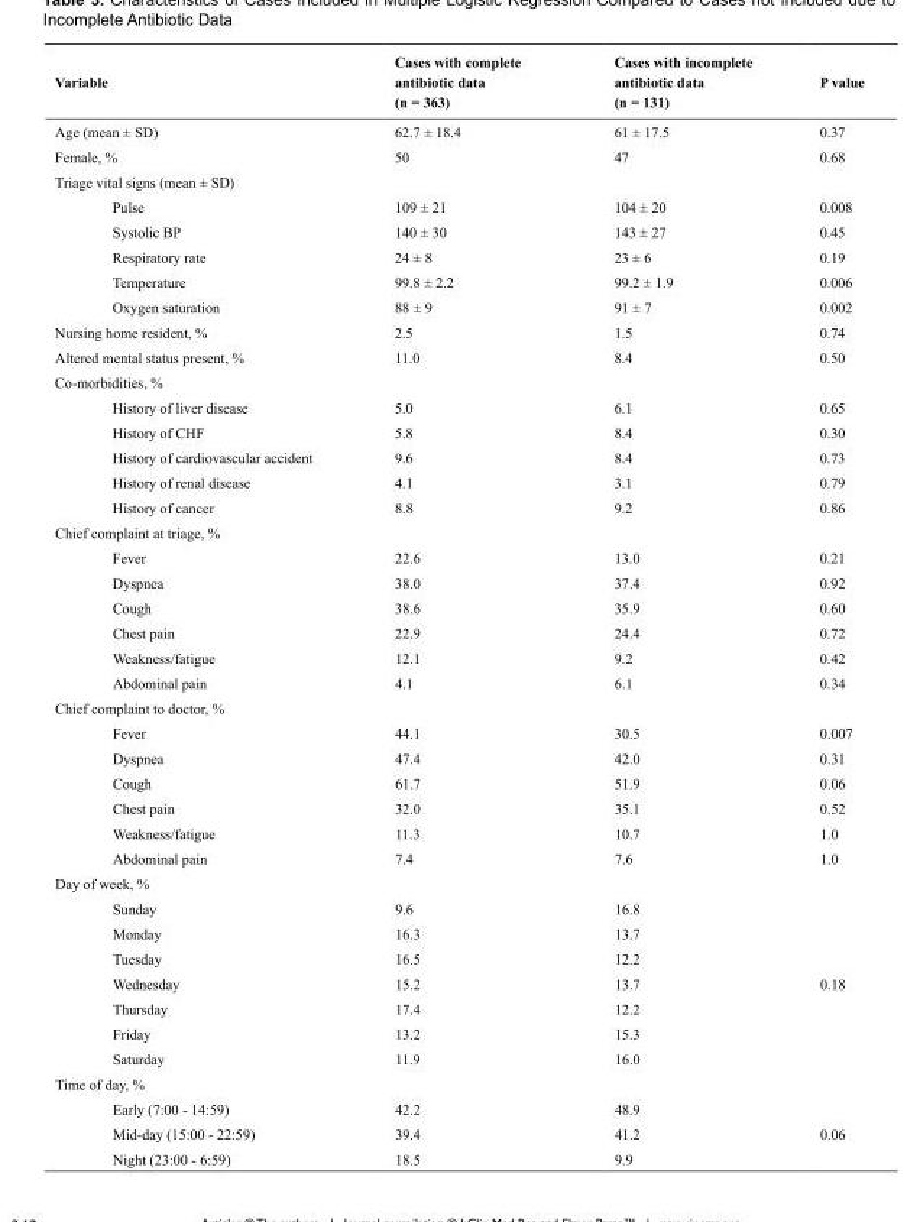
<table><thead><tr><td>Variable</td><td>Cases with complete antibiotic data (n = 363)</td><td>Cases with incomplete antibiotic data (n = 131)</td><td>P value</td></tr></thead><tbody><tr><td>Age (mean ± SD)</td><td>62.7 ± 18.4</td><td>61 ± 17.5</td><td>0.37</td></tr><tr><td>Female, %</td><td>50</td><td>47</td><td>0.68</td></tr><tr><td colspan="4">Triage vital signs (mean ± SD)</td></tr><tr><td>Pulse</td><td>109 ± 21</td><td>104 ± 20</td><td>0.008</td></tr><tr><td>Systolic BP</td><td>140 ± 30</td><td>143 ± 27</td><td>0.45</td></tr><tr><td>Respiratory rate</td><td>24 ± 8</td><td>23 ± 6</td><td>0.19</td></tr><tr><td>Temperature</td><td>99.8 ± 2.2</td><td>99.2 ± 1.9</td><td>0.006</td></tr><tr><td>Oxygen saturation</td><td>88 ± 9</td><td>91 ± 7</td><td>0.002</td></tr><tr><td>Nursing home resident, %</td><td>2.5</td><td>1.5</td><td>0.74</td></tr><tr><td>Altered mental status present, %</td><td>11.0</td><td>8.4</td><td>0.50</td></tr><tr><td colspan="4">Co-morbidities, %</td></tr><tr><td>History of liver disease</td><td>5.0</td><td>6.1</td><td>0.65</td></tr><tr><td>History of CHF</td><td>5.8</td><td>8.4</td><td>0.30</td></tr><tr><td>History of cardiovascular accident</td><td>9.6</td><td>8.4</td><td>0.73</td></tr><tr><td>History of renal disease</td><td>4.1</td><td>3.1</td><td>0.79</td></tr><tr><td>History of cancer</td><td>8.8</td><td>9.2</td><td>0.86</td></tr><tr><td colspan="4">Chief complaint at triage, %</td></tr><tr><td>Fever</td><td>22.6</td><td>13.0</td><td>0.21</td></tr><tr><td>Dyspnea</td><td>38.0</td><td>37.4</td><td>0.92</td></tr><tr><td>Cough</td><td>38.6</td><td>35.9</td><td>0.60</td></tr><tr><td>Chest pain</td><td>22.9</td><td>24.4</td><td>0.72</td></tr><tr><td>Weakness/fatigue</td><td>12.1</td><td>9.2</td><td>0.42</td></tr><tr><td>Abdominal pain</td><td>4.1</td><td>6.1</td><td>0.34</td></tr><tr><td colspan="4">Chief complaint to doctor, %</td></tr><tr><td>Fever</td><td>44.1</td><td>30.5</td><td>0.007</td></tr><tr><td>Dyspnea</td><td>47.4</td><td>42.0</td><td>0.31</td></tr><tr><td>Cough</td><td>61.7</td><td>51.9</td><td>0.06</td></tr><tr><td>Chest pain</td><td>32.0</td><td>35.1</td><td>0.52</td></tr><tr><td>Weakness/fatigue</td><td>11.3</td><td>10.7</td><td>1.0</td></tr><tr><td>Abdominal pain</td><td>7.4</td><td>7.6</td><td>1.0</td></tr><tr><td colspan="4">Day of week, %</td></tr><tr><td>Sunday</td><td>9.6</td><td>16.8</td><td rowspan="7">0.18</td></tr><tr><td>Monday</td><td>16.3</td><td>13.7</td></tr><tr><td>Tuesday</td><td>16.5</td><td>12.2</td></tr><tr><td>Wednesday</td><td>15.2</td><td>13.7</td></tr><tr><td>Thursday</td><td>17.4</td><td>12.2</td></tr><tr><td>Friday</td><td>13.2</td><td>15.3</td></tr><tr><td>Saturday</td><td>11.9</td><td>16.0</td></tr><tr><td colspan="4">Time of day, %</td></tr><tr><td>Early (7:00 - 14:59)</td><td>42.2</td><td>48.9</td><td rowspan="3">0.06</td></tr><tr><td>Mid-day (15:00 - 22:59)</td><td>39.4</td><td>41.2</td></tr><tr><td>Night (23:00 - 6:59)</td><td>18.5</td><td>9.9</td></tr></tbody></table>